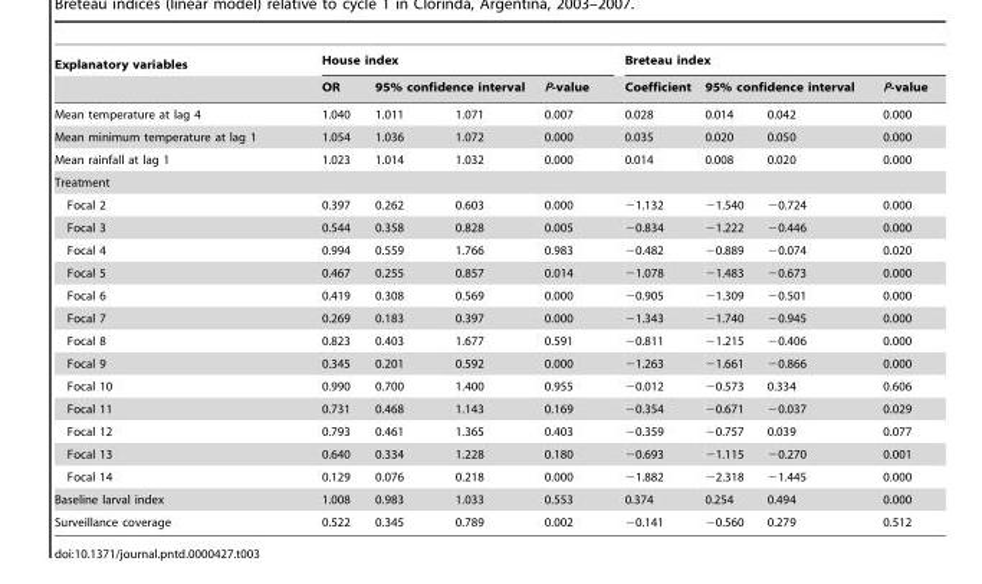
<table><thead><tr><td rowspan="3">Explanatory variables Mean temperature at lag 4</td><td colspan="4">House index</td><td colspan="4">Breteau index</td></tr><tr><td rowspan="2">OR 1.040</td><td colspan="2">95% confidence interval</td><td rowspan="2">P-value 0.007</td><td rowspan="2">Coefficient 0.028</td><td colspan="2">95% confidence interval</td><td rowspan="2">P-value 0.000</td></tr><tr><td>1.011</td><td>1.071</td><td>0.014</td><td>0.042</td></tr></thead><tbody><tr><td>Mean minimum temperature at lag 1</td><td>1.054</td><td>1.036</td><td>1.072</td><td>0.000</td><td>0.035</td><td>0.020</td><td>0.050</td><td>0.000</td></tr><tr><td>Mean rainfall at lag 1</td><td>1.023</td><td>1.014</td><td>1.032</td><td>0.000</td><td>0.014</td><td>0.008</td><td>0.020</td><td>0.000</td></tr><tr><td colspan="9">Treatment</td></tr><tr><td>Focal 2</td><td>0.397</td><td>0.262</td><td>0.603</td><td>0.000</td><td>−1.132</td><td>−1.540</td><td>−0.724</td><td>0.000</td></tr><tr><td>Focal 3</td><td>0.544</td><td>0.358</td><td>0.828</td><td>0.005</td><td>−0.834</td><td>−1.222</td><td>−0.446</td><td>0.000</td></tr><tr><td>Focal 4</td><td>0.994</td><td>0.559</td><td>1.766</td><td>0.983</td><td>−0.482</td><td>−0.889</td><td>−0.074</td><td>0.020</td></tr><tr><td>Focal 5</td><td>0.467</td><td>0.255</td><td>0.857</td><td>0.014</td><td>−1.078</td><td>−1.483</td><td>−0.673</td><td>0.000</td></tr><tr><td>Focal 6</td><td>0.419</td><td>0.308</td><td>0.569</td><td>0.000</td><td>−0.905</td><td>−1.309</td><td>−0.501</td><td>0.000</td></tr><tr><td>Focal 7</td><td>0.269</td><td>0.183</td><td>0.397</td><td>0.000</td><td>−1.343</td><td>−1.740</td><td>−0.945</td><td>0.000</td></tr><tr><td>Focal 8</td><td>0.823</td><td>0.403</td><td>1.677</td><td>0.591</td><td>−0.811</td><td>−1.215</td><td>−0.406</td><td>0.000</td></tr><tr><td>Focal 9</td><td>0.345</td><td>0.201</td><td>0.592</td><td>0.000</td><td>−1.263</td><td>−1.661</td><td>−0.866</td><td>0.000</td></tr><tr><td>Focal 10</td><td>0.990</td><td>0.700</td><td>1.400</td><td>0.955</td><td>−0.012</td><td>−0.573</td><td>0.334</td><td>0.606</td></tr><tr><td>Focal 11</td><td>0.731</td><td>0.468</td><td>1.143</td><td>0.169</td><td>−0.354</td><td>−0.671</td><td>−0.037</td><td>0.029</td></tr><tr><td>Focal 12</td><td>0.793</td><td>0.461</td><td>1.365</td><td>0.403</td><td>−0.359</td><td>−0.757</td><td>0.039</td><td>0.077</td></tr><tr><td>Focal 13</td><td>0.640</td><td>0.334</td><td>1.228</td><td>0.180</td><td>−0.693</td><td>−1.115</td><td>−0.270</td><td>0.001</td></tr><tr><td>Focal 14</td><td>0.129</td><td>0.076</td><td>0.218</td><td>0.000</td><td>−1.882</td><td>−2.318</td><td>−1.445</td><td>0.000</td></tr><tr><td>Baseline larval index</td><td>1.008</td><td>0.983</td><td>1.033</td><td>0.553</td><td>0.374</td><td>0.254</td><td>0.494</td><td>0.000</td></tr><tr><td>Surveillance coverage</td><td>0.522</td><td>0.345</td><td>0.789</td><td>0.002</td><td>−0.141</td><td>−0.560</td><td>0.279</td><td>0.512</td></tr></tbody></table>